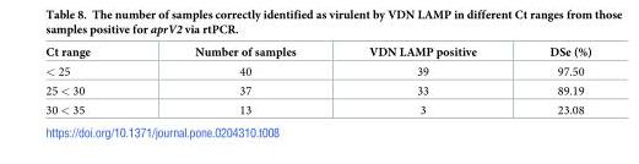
<table><thead><tr><td>Ct range</td><td>Number of samples</td><td>VDN LAMP positive</td><td>DSe (%)</td></tr></thead><tbody><tr><td>&lt; 25</td><td>40</td><td>39</td><td>97.50</td></tr><tr><td>25 &lt; 30</td><td>37</td><td>33</td><td>89.19</td></tr><tr><td>30 &lt; 35</td><td>13</td><td>3</td><td>23.08</td></tr></tbody></table>